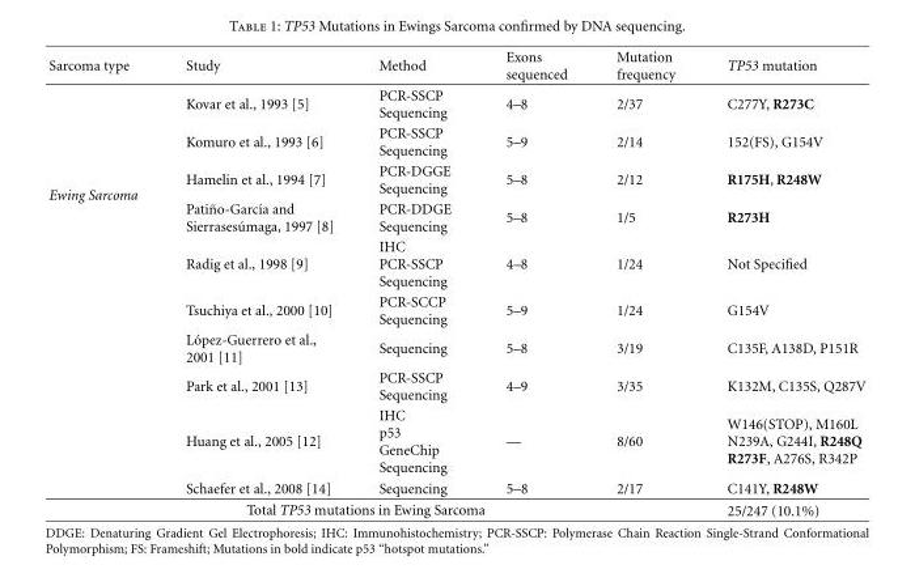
<table><thead><tr><td>Sarcoma type</td><td>Study</td><td>Method</td><td>Exons sequenced</td><td>Mutation frequency</td><td>TP53 mutation</td></tr></thead><tbody><tr><td rowspan="10">Ewing Sarcoma</td><td>Kovar et al., 1993 [5]</td><td>PCR-SSCP Sequencing</td><td>4–8</td><td>2/37</td><td>C277Y, R273C</td></tr><tr><td>Komuro et al., 1993 [6]</td><td>PCR-SSCP Sequencing</td><td>5–9</td><td>2/14</td><td>152(FS), G154V</td></tr><tr><td>Hamelin et al., 1994 [7]</td><td>PCR-DGGE Sequencing</td><td>5–8</td><td>2/12</td><td>R175H, R248W</td></tr><tr><td>Pati˜no-Garc´ıa and Sierrases´umaga, 1997 [8]</td><td>PCR-DDGE Sequencing</td><td>5–8</td><td>1/5</td><td>R273H</td></tr><tr><td>Radig et al., 1998 [9]</td><td>IHC PCR-SSCP Sequencing</td><td>4–8</td><td>1/24</td><td>Not Specified</td></tr><tr><td>Tsuchiya et al., 2000 [10]</td><td>PCR-SCCP Sequencing</td><td>5–9</td><td>1/24</td><td>G154V</td></tr><tr><td>L´opez-Guerrero et al., 2001 [11]</td><td>Sequencing</td><td>5–8</td><td>3/19</td><td>C135F, A138D, P151R</td></tr><tr><td>Park et al., 2001 [13]</td><td>PCR-SSCP Sequencing</td><td>4–9</td><td>3/35</td><td>K132M, C135S, Q287V</td></tr><tr><td>Huang et al., 2005 [12]</td><td>IHC p53 GeneChip Sequencing</td><td>—</td><td>8/60</td><td>W146(STOP), M160L N239A, G244I, R248Q R273F, A276S, R342P</td></tr><tr><td>Schaefer et al., 2008 [14]</td><td>Sequencing</td><td>5–8</td><td>2/17</td><td>C141Y, R248W</td></tr><tr><td colspan="5">Total TP53 mutations in Ewing Sarcoma</td><td>25/247 (10.1%)</td></tr></tbody></table>